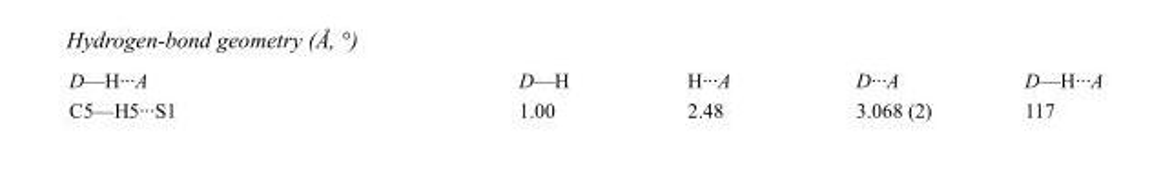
<table><tbody><tr><td>D—H···A</td><td>D—H</td><td>H···A</td><td>D···A</td><td>D—H···A</td></tr><tr><td>C5—H5···S1</td><td>1.00</td><td>2.48</td><td>3.068 (2)</td><td>117</td></tr></tbody></table>